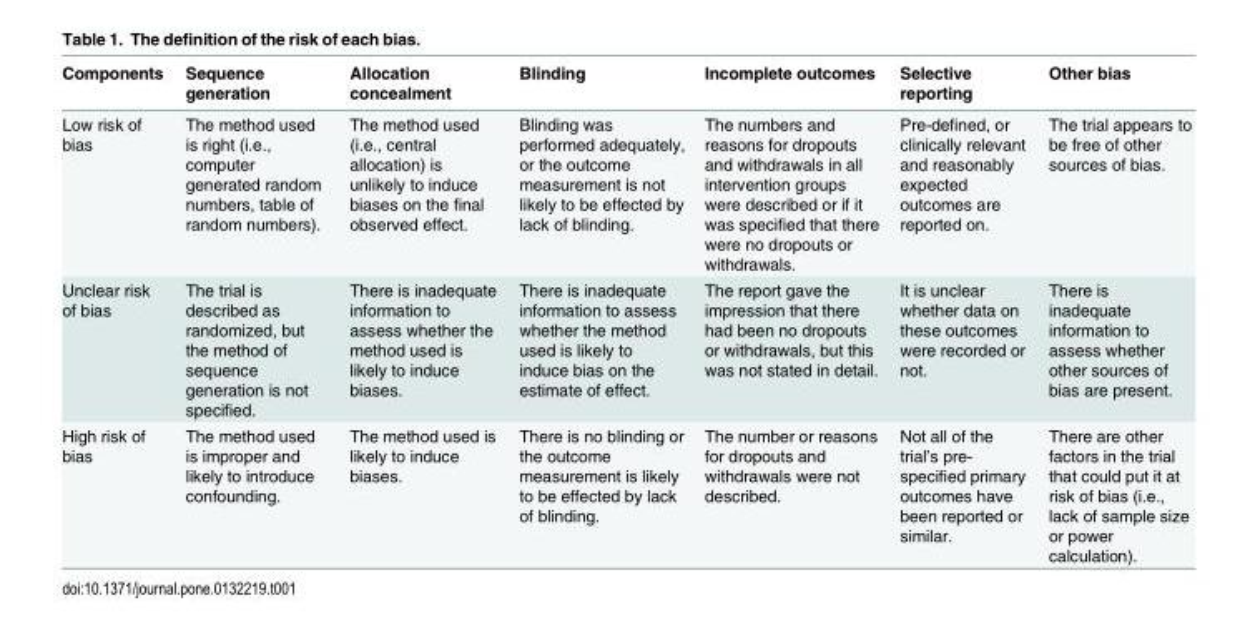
<table><thead><tr><td>Components</td><td>Sequence generation</td><td>Allocation concealment</td><td>Blinding</td><td>Incomplete outcomes</td><td>Selective reporting</td><td>Other bias</td></tr></thead><tbody><tr><td>Low risk of bias</td><td>The method used is right (i.e., computer generated random numbers, table of random numbers).</td><td>The method used (i.e., central allocation) is unlikely to induce biases on the final observed effect.</td><td>Blinding was performed adequately, or the outcome measurement is not likely to be effected by lack of blinding.</td><td>The numbers and reasons for dropouts and withdrawals in all intervention groups were described or if it was specified that there were no dropouts or withdrawals.</td><td>Pre-defined, or clinically relevant and reasonably expected outcomes are reported on.</td><td>The trial appears to be free of other sources of bias.</td></tr><tr><td>Unclear risk of bias</td><td>The trial is described as randomized, but the method of sequence generation is not specified.</td><td>There is inadequate information to assess whether the method used is likely to induce biases.</td><td>There is inadequate information to assess whether the method used is likely to induce bias on the estimate of effect.</td><td>The report gave the impression that there had been no dropouts or withdrawals, but this was not stated in detail.</td><td>It is unclear whether data on these outcomes were recorded or not.</td><td>There is inadequate information to assess whether other sources of bias are present.</td></tr><tr><td>High risk of bias</td><td>The method used is improper and likely to introduce confounding.</td><td>The method used is likely to induce biases.</td><td>There is no blinding or the outcome measurement is likely to be effected by lack of blinding.</td><td>The number or reasons for dropouts and withdrawals were not described.</td><td>Not all of the trial’s pre- specified primary outcomes have been reported or similar.</td><td>There are other factors in the trial that could put it at risk of bias (i.e., lack of sample size or power calculation).</td></tr></tbody></table>